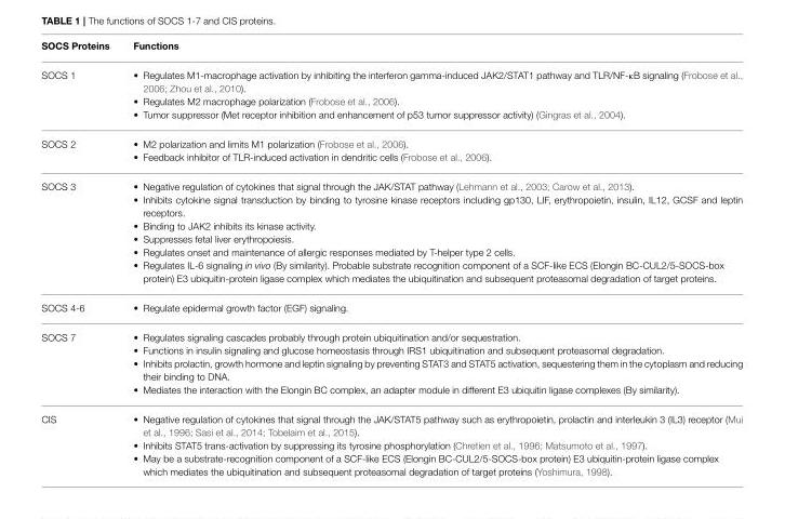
<table><thead><tr><td>SOCS Proteins</td><td>Functions</td></tr></thead><tbody><tr><td>SOCS 1</td><td>• Regulates M1-macrophage activation by inhibiting the interferon gamma-induced JAK2/STAT1 pathway and TLR/NF-κB signaling (Frobose et al., 2006; Zhou et al., 2010). • Regulates M2 macrophage polarization (Frobose et al., 2006). • Tumor suppressor (Met receptor inhibition and enhancement of p53 tumor suppressor activity) (Gingras et al., 2004).</td></tr><tr><td>SOCS 2</td><td>• M2 polarization and limits M1 polarization (Frobose et al., 2006). • Feedback inhibitor of TLR-induced activation in dendritic cells (Frobose et al., 2006).</td></tr><tr><td>SOCS 3</td><td>• Negative regulation of cytokines that signal through the JAK/STAT pathway (Lehmann et al., 2003; Carow et al., 2013). • Inhibits cytokine signal transduction by binding to tyrosine kinase receptors including gp130, LIF, erythropoietin, insulin, IL12, GCSF and leptin receptors. • Binding to JAK2 inhibits its kinase activity. • Suppresses fetal liver erythropoiesis. • Regulates onset and maintenance of allergic responses mediated by T-helper type 2 cells. • Regulates IL-6 signaling in vivo (By similarity). Probable substrate recognition component of a SCF-like ECS (Elongin BC-CUL2/5-SOCS-box protein) E3 ubiquitin-protein ligase complex which mediates the ubiquitination and subsequent proteasomal degradation of target proteins.</td></tr><tr><td>SOCS 4-6</td><td>• Regulate epidermal growth factor (EGF) signaling.</td></tr><tr><td>SOCS 7</td><td>• Regulates signaling cascades probably through protein ubiquitination and/or sequestration. • Functions in insulin signaling and glucose homeostasis through IRS1 ubiquitination and subsequent proteasomal degradation. • Inhibits prolactin, growth hormone and leptin signaling by preventing STAT3 and STAT5 activation, sequestering them in the cytoplasm and reducing their binding to DNA. • Mediates the interaction with the Elongin BC complex, an adapter module in different E3 ubiquitin ligase complexes (By similarity).</td></tr><tr><td>CIS</td><td>• Negative regulation of cytokines that signal through the JAK/STAT5 pathway such as erythropoietin, prolactin and interleukin 3 (IL3) receptor (Mui et al., 1996; Sasi et al., 2014; Tobelaim et al., 2015). • Inhibits STAT5 trans-activation by suppressing its tyrosine phosphorylation (Chretien et al., 1996; Matsumoto et al., 1997). • May be a substrate-recognition component of a SCF-like ECS (Elongin BC-CUL2/5-SOCS-box protein) E3 ubiquitin-protein ligase complex which mediates the ubiquitination and subsequent proteasomal degradation of target proteins (Yoshimura, 1998).</td></tr></tbody></table>